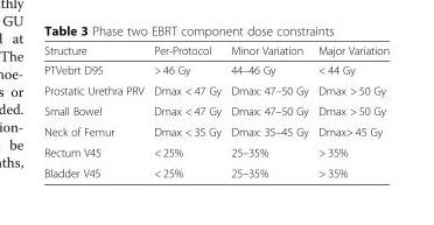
<table><thead><tr><td>Structure</td><td>Per-Protocol</td><td>Minor Variation</td><td>Major Variation</td></tr></thead><tbody><tr><td>PTVebrt D95</td><td>&gt; 46 Gy</td><td>44–46 Gy</td><td>&lt; 44 Gy</td></tr><tr><td>Prostatic Urethra PRV</td><td>Dmax &lt; 47 Gy</td><td>Dmax: 47–50 Gy</td><td>Dmax &gt; 50 Gy</td></tr><tr><td>Small Bowel</td><td>Dmax &lt; 47 Gy</td><td>Dmax: 47–50 Gy</td><td>Dmax &gt; 50 Gy</td></tr><tr><td>Neck of Femur</td><td>Dmax &lt; 35 Gy</td><td>Dmax: 35–45 Gy</td><td>Dmax&gt; 45 Gy</td></tr><tr><td>Rectum V45</td><td>&lt; 25%</td><td>25–35%</td><td>&gt; 35%</td></tr><tr><td>Bladder V45</td><td>&lt; 25%</td><td>25–35%</td><td>&gt; 35%</td></tr></tbody></table>